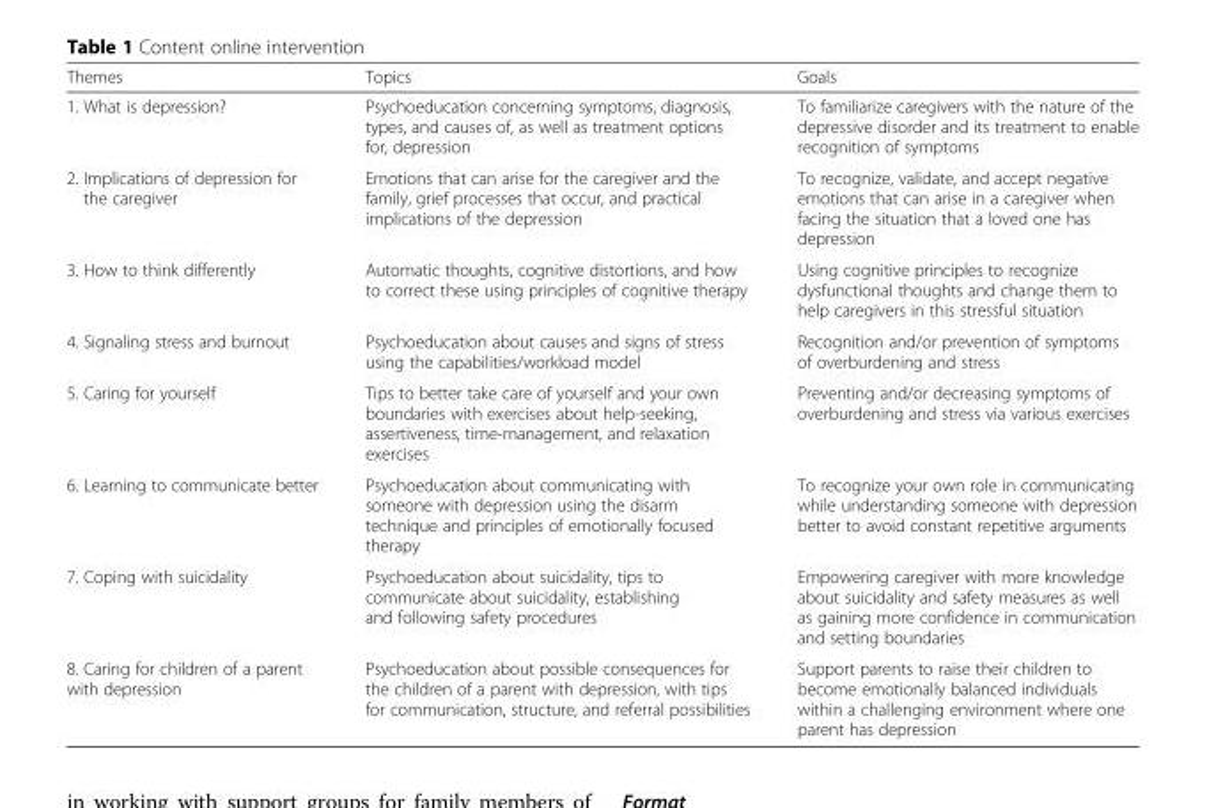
<table><thead><tr><td>Themes</td><td>Topics</td><td>Goals</td></tr></thead><tbody><tr><td>1. What is depression?</td><td>Psychoeducation concerning symptoms, diagnosis, types, and causes of, as well as treatment options for, depression</td><td>To familiarize caregivers with the nature of the depressive disorder and its treatment to enable recognition of symptoms</td></tr><tr><td>2. Implications of depression for the caregiver</td><td>Emotions that can arise for the caregiver and the family, grief processes that occur, and practical implications of the depression</td><td>To recognize, validate, and accept negative emotions that can arise in a caregiver when facing the situation that a loved one has depression</td></tr><tr><td>3. How to think differently</td><td>Automatic thoughts, cognitive distortions, and how to correct these using principles of cognitive therapy</td><td>Using cognitive principles to recognize dysfunctional thoughts and change them to help caregivers in this stressful situation</td></tr><tr><td>4. Signaling stress and burnout</td><td>Psychoeducation about causes and signs of stress using the capabilities/workload model</td><td>Recognition and/or prevention of symptoms of overburdening and stress</td></tr><tr><td>5. Caring for yourself</td><td>Tips to better take care of yourself and your own boundaries with exercises about help-seeking, assertiveness, time-management, and relaxation exercises</td><td>Preventing and/or decreasing symptoms of overburdening and stress via various exercises</td></tr><tr><td>6. Learning to communicate better</td><td>Psychoeducation about communicating with someone with depression using the disarm technique and principles of emotionally focused therapy</td><td>To recognize your own role in communicating while understanding someone with depression better to avoid constant repetitive arguments</td></tr><tr><td>7. Coping with suicidality</td><td>Psychoeducation about suicidality, tips to communicate about suicidality, establishing and following safety procedures</td><td>Empowering caregiver with more knowledge about suicidality and safety measures as well as gaining more confidence in communication and setting boundaries</td></tr><tr><td>8. Caring for children of a parent with depression</td><td>Psychoeducation about possible consequences for the children of a parent with depression, with tips for communication, structure, and referral possibilities</td><td>Support parents to raise their children to become emotionally balanced individuals within a challenging environment where one parent has depression</td></tr></tbody></table>